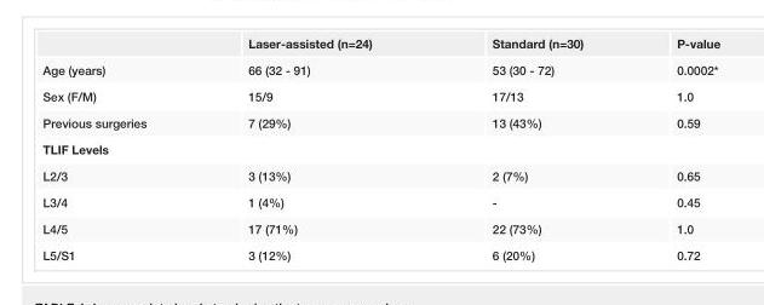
<table><thead><tr><td></td><td>Laser-assisted (n=24)</td><td>Standard (n=30)</td><td>P-value</td></tr></thead><tbody><tr><td>Age (years)</td><td>66 (32 - 91)</td><td>53 (30 - 72)</td><td>0.0002*</td></tr><tr><td>Sex (F/M)</td><td>15/9</td><td>17/13</td><td>1.0</td></tr><tr><td>Previous surgeries</td><td>7 (29%)</td><td>13 (43%)</td><td>0.59</td></tr><tr><td colspan="4">TLIF Levels</td></tr><tr><td>L2/3</td><td>3 (13%)</td><td>2 (7%)</td><td>0.65</td></tr><tr><td>L3/4</td><td>1 (4%)</td><td>-</td><td>0.45</td></tr><tr><td>L4/5</td><td>17 (71%)</td><td>22 (73%)</td><td>1.0</td></tr><tr><td>L5/S1</td><td>3 (12%)</td><td>6 (20%)</td><td>0.72</td></tr></tbody></table>